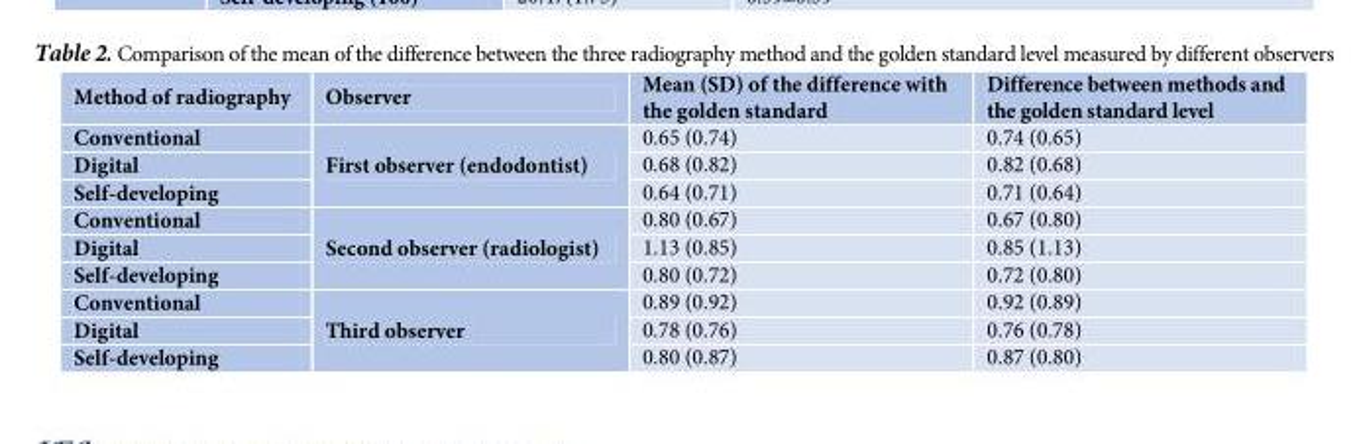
<table><thead><tr><td>Method of radiography</td><td>Observer</td><td>Mean (SD) of the difference with the golden standard</td><td>Difference between methods and the golden standard level</td></tr></thead><tbody><tr><td>Conventional</td><td rowspan="3">First observer (endodontist)</td><td>0.65 (0.74)</td><td>0.74 (0.65)</td></tr><tr><td>Digital</td><td>0.68 (0.82)</td><td>0.82 (0.68)</td></tr><tr><td>Self-developing</td><td>0.64 (0.71)</td><td>0.71 (0.64)</td></tr><tr><td>Conventional</td><td rowspan="3">Second observer (radiologist)</td><td>0.80 (0.67)</td><td>0.67 (0.80)</td></tr><tr><td>Digital</td><td>1.13 (0.85)</td><td>0.85 (1.13)</td></tr><tr><td>Self-developing</td><td>0.80 (0.72)</td><td>0.72 (0.80)</td></tr><tr><td>Conventional</td><td rowspan="3">Third observer</td><td>0.89 (0.92)</td><td>0.92 (0.89)</td></tr><tr><td>Digital</td><td>0.78 (0.76)</td><td>0.76 (0.78)</td></tr><tr><td>Self-developing</td><td>0.80 (0.87)</td><td>0.87 (0.80)</td></tr></tbody></table>